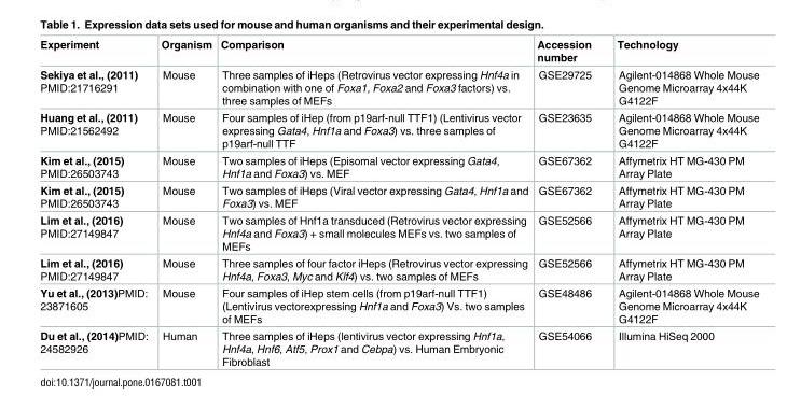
<table><thead><tr><td>Experiment</td><td>Organism</td><td>Comparison</td><td>Accession number</td><td>Technology</td></tr></thead><tbody><tr><td>Sekiya et al., (2011) PMID:21716291</td><td>Mouse</td><td>Three samples of iHeps (Retrovirus vector expressing Hnf4a in combination with one of Foxa1, Foxa2 and Foxa3 factors) vs. three samples of MEFs</td><td>GSE29725</td><td>Agilent-014868 Whole Mouse Genome Microarray 4x44K G4122F</td></tr><tr><td>Huang et al., (2011) PMID:21562492</td><td>Mouse</td><td>Four samples of iHep (from p19arf-null TTF1) (Lentivirus vector expressing Gata4, Hnf1a and Foxa3) vs. three samples of p19arf-null TTF</td><td>GSE23635</td><td>Agilent-014868 Whole Mouse Genome Microarray 4x44K G4122F</td></tr><tr><td>Kim et al., (2015) PMID:26503743</td><td>Mouse</td><td>Two samples of iHeps (Episomal vector expressing Gata4, Hnf1a and Foxa3) vs. MEF</td><td>GSE67362</td><td>Affymetrix HT MG-430 PM Array Plate</td></tr><tr><td>Kim et al., (2015) PMID:26503743</td><td>Mouse</td><td>Two samples of iHeps (Viral vector expressing Gata4, Hnf1a and Foxa3) vs. MEF</td><td>GSE67362</td><td>Affymetrix HT MG-430 PM Array Plate</td></tr><tr><td>Lim et al., (2016) PMID:27149847</td><td>Mouse</td><td>Two samples of Hnf1a transduced (Retrovirus vector expressing Hnf4a and Foxa3) + small molecules MEFs vs. two samples of MEFs</td><td>GSE52566</td><td>Affymetrix HT MG-430 PM Array Plate</td></tr><tr><td>Lim et al., (2016) PMID:27149847</td><td>Mouse</td><td>Three samples of four factor iHeps (Retrovirus vector expressing Hnf4a, Foxa3, Myc and Klf4) vs. two samples of MEFs</td><td>GSE52566</td><td>Affymetrix HT MG-430 PM Array Plate</td></tr><tr><td>Yu et al., (2013)PMID: 23871605</td><td>Mouse</td><td>Four samples of iHep stem cells (from p19arf-null TTF1) (Lentivirus vectorexpressing Hnf1a and Foxa3) Vs. two samples of MEFs</td><td>GSE48486</td><td>Agilent-014868 Whole Mouse Genome Microarray 4x44K G4122F</td></tr><tr><td>Du et al., (2014)PMID: 24582926</td><td>Human</td><td>Three samples of iHeps (lentivirus vector expressing Hnf1a, Hnf4a, Hnf6, Atf5, Prox1 and Cebpa) vs. Human Embryonic Fibroblast</td><td>GSE54066</td><td>Illumina HiSeq 2000</td></tr></tbody></table>